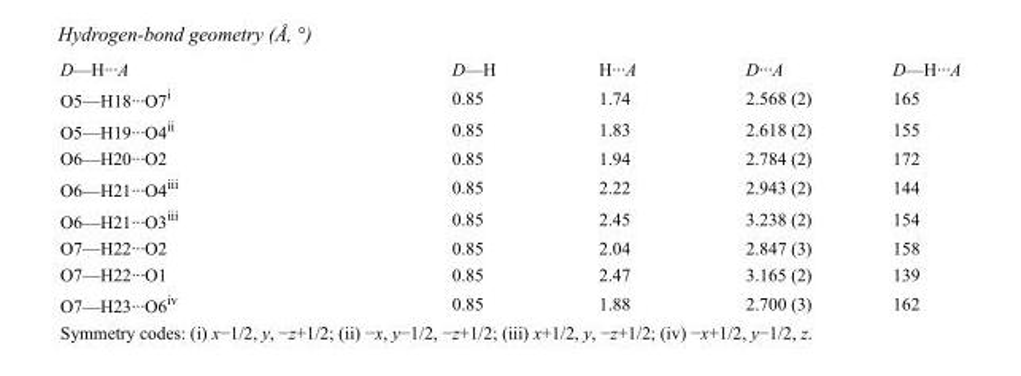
<table><tbody><tr><td>D—H···A</td><td>D—H</td><td>H···A</td><td>D···A</td><td>D—H···A</td></tr><tr><td>O5—H18···O7<sup>i</sup></td><td>0.85</td><td>1.74</td><td>2.568 (2)</td><td>165</td></tr><tr><td>O5—H19···O4<sup>ii</sup></td><td>0.85</td><td>1.83</td><td>2.618 (2)</td><td>155</td></tr><tr><td>O6—H20···O2</td><td>0.85</td><td>1.94</td><td>2.784 (2)</td><td>172</td></tr><tr><td>O6—H21···O4<sup>iii</sup></td><td>0.85</td><td>2.22</td><td>2.943 (2)</td><td>144</td></tr><tr><td>O6—H21···O3<sup>iii</sup></td><td>0.85</td><td>2.45</td><td>3.238 (2)</td><td>154</td></tr><tr><td>O7—H22···O2</td><td>0.85</td><td>2.04</td><td>2.847 (3)</td><td>158</td></tr><tr><td>O7—H22···O1</td><td>0.85</td><td>2.47</td><td>3.165 (2)</td><td>139</td></tr><tr><td>O7—H23···O6<sup>iv</sup></td><td>0.85</td><td>1.88</td><td>2.700 (3)</td><td>162</td></tr></tbody></table>